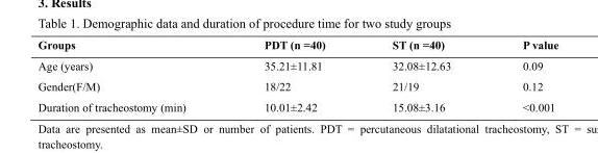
<table><thead><tr><td>Groups</td><td>PDT (n =40)</td><td>ST (n =40)</td><td>P value</td></tr></thead><tbody><tr><td>Age (years)</td><td>35.21±11.81</td><td>32.08±12.63</td><td>0.09</td></tr><tr><td>Gender(F/M)</td><td>18/22</td><td>21/19</td><td>0.12</td></tr><tr><td>Duration of tracheostomy (min)</td><td>10.01±2.42</td><td>15.08±3.16</td><td>&lt;0.001</td></tr></tbody></table>